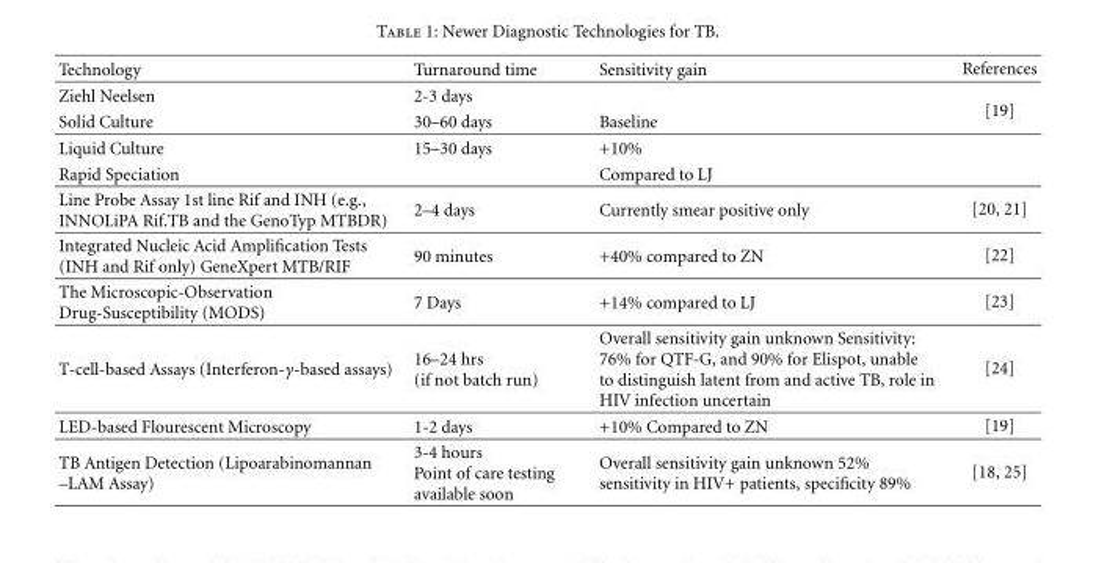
<table><thead><tr><td>Technology</td><td>Turnaround time</td><td>Sensitivity gain</td><td>References</td></tr></thead><tbody><tr><td>Ziehl Neelsen</td><td>2-3 days</td><td></td><td rowspan="2">[19]</td></tr><tr><td>Solid Culture</td><td>30–60 days</td><td>Baseline</td></tr><tr><td>Liquid Culture</td><td>15–30 days</td><td>+10%</td><td></td></tr><tr><td>Rapid Speciation</td><td></td><td>Compared to LJ</td><td></td></tr><tr><td>Line Probe Assay 1st line Rif and INH (e.g., INNOLiPA Rif.TB and the GenoTyp MTBDR)</td><td>2–4 days</td><td>Currently smear positive only</td><td>[20, 21]</td></tr><tr><td>Integrated Nucleic Acid Amplification Tests (INH and Rif only) GeneXpert MTB/RIF</td><td>90 minutes</td><td>+40% compared to ZN</td><td>[22]</td></tr><tr><td>The Microscopic-Observation Drug-Susceptibility (MODS)</td><td>7 Days</td><td>+14% compared to LJ</td><td>[23]</td></tr><tr><td>T-cell-based Assays (Interferon-γ-based assays)</td><td>16–24 hrs (if not batch run)</td><td>Overall sensitivity gain unknown Sensitivity: 76% for QTF-G, and 90% for Elispot, unable to distinguish latent from and active TB, role in HIV infection uncertain</td><td>[24]</td></tr><tr><td>LED-based Flourescent Microscopy</td><td>1-2 days</td><td>+10% Compared to ZN</td><td>[19]</td></tr><tr><td>TB Antigen Detection (Lipoarabinomannan –LAM Assay)</td><td>3-4 hours Point of care testing available soon</td><td>Overall sensitivity gain unknown 52% sensitivity in HIV+ patients, specificity 89%</td><td>[18, 25]</td></tr></tbody></table>